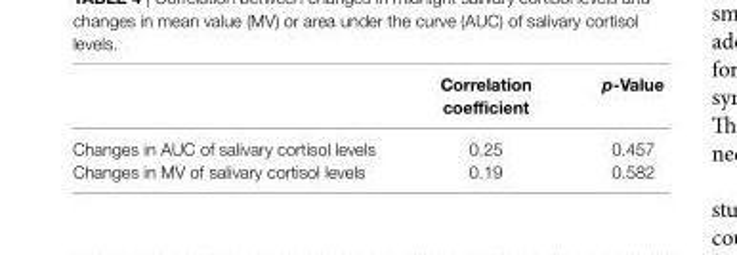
<table><thead><tr><td></td><td>correlation coefficient</td><td>p-Value</td></tr></thead><tbody><tr><td>Changes in AUC of salivary cortisol levels</td><td>0.25</td><td>0.457</td></tr><tr><td>Changes in MV of salivary cortisol levels</td><td>0.19</td><td>0.582</td></tr></tbody></table>